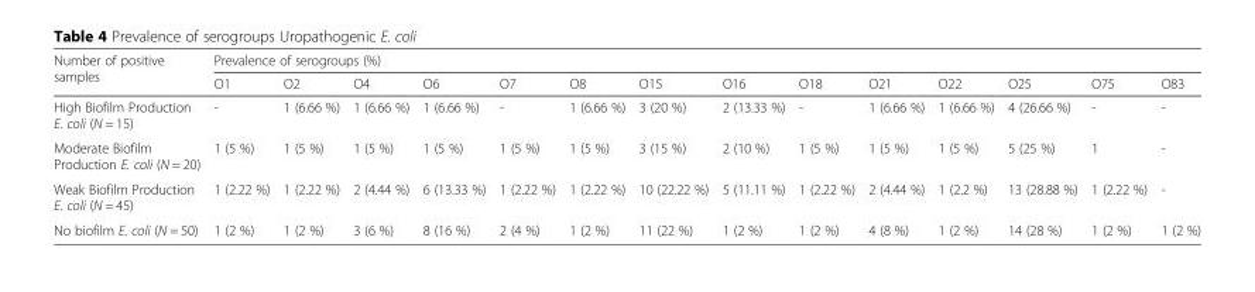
<table><thead><tr><td rowspan="2">Number of positive samples</td><td colspan="14">Prevalence of serogroups (%)</td></tr><tr><td>O1</td><td>O2</td><td>O4</td><td>O6</td><td>O7</td><td>O8</td><td>O15</td><td>O16</td><td>O18</td><td>O21</td><td>O22</td><td>O25</td><td>O75</td><td>O83</td></tr></thead><tbody><tr><td>High Biofilm Production E. coli (N = 15)</td><td>-</td><td>1 (6.66 %)</td><td>1 (6.66 %)</td><td>1 (6.66 %)</td><td>-</td><td>1 (6.66 %)</td><td>3 (20 %)</td><td>2 (13.33 %)</td><td>-</td><td>1 (6.66 %)</td><td>1 (6.66 %)</td><td>4 (26.66 %)</td><td>-</td><td>-</td></tr><tr><td>Moderate Biofilm Production E. coli (N = 20)</td><td>1 (5 %)</td><td>1 (5 %)</td><td>1 (5 %)</td><td>1 (5 %)</td><td>1 (5 %)</td><td>1 (5 %)</td><td>3 (15 %)</td><td>2 (10 %)</td><td>1 (5 %)</td><td>1 (5 %)</td><td>1 (5 %)</td><td>5 (25 %)</td><td>1</td><td>-</td></tr><tr><td>Weak Biofilm Production E. coli (N = 45)</td><td>1 (2.22 %)</td><td>1 (2.22 %)</td><td>2 (4.44 %)</td><td>6 (13.33 %)</td><td>1 (2.22 %)</td><td>1 (2.22 %)</td><td>10 (22.22 %)</td><td>5 (11.11 %)</td><td>1 (2.22 %)</td><td>2 (4.44 %)</td><td>1 (2.2 %)</td><td>13 (28.88 %)</td><td>1 (2.22 %)</td><td>-</td></tr><tr><td>No biofilm E. coli (N = 50)</td><td>1 (2 %)</td><td>1 (2 %)</td><td>3 (6 %)</td><td>8 (16 %)</td><td>2 (4 %)</td><td>1 (2 %)</td><td>11 (22 %)</td><td>1 (2 %)</td><td>1 (2 %)</td><td>4 (8 %)</td><td>1 (2 %)</td><td>14 (28 %)</td><td>1 (2 %)</td><td>1 (2 %)</td></tr></tbody></table>